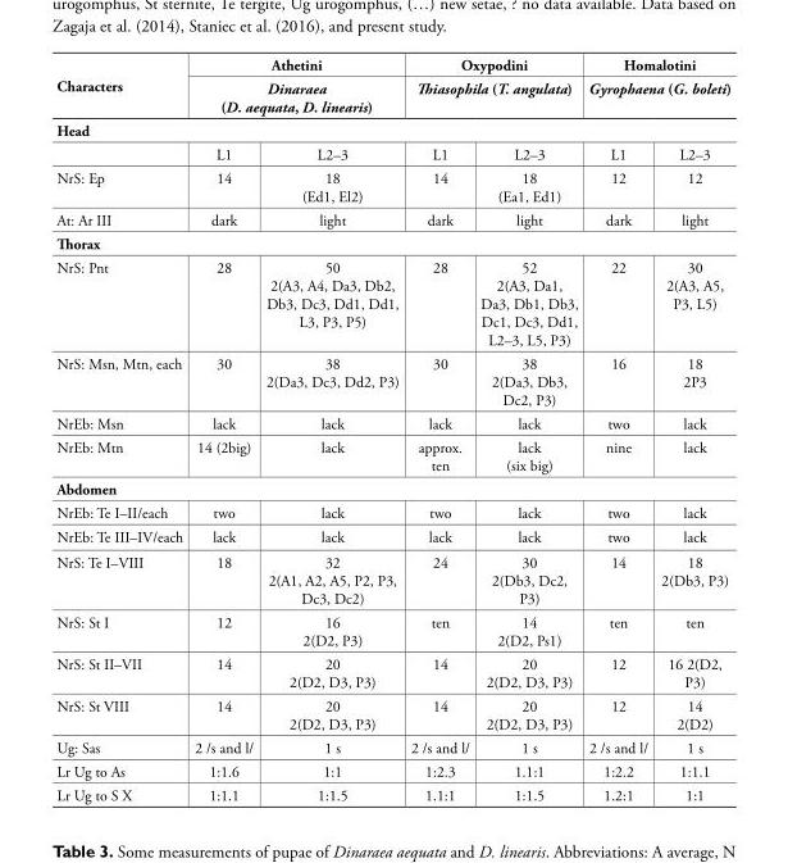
<table><tbody><tr><td rowspan="2">Characters</td><td colspan="2">Athetini</td><td colspan="2">Oxypodini</td><td colspan="2">Homalotini</td></tr><tr><td colspan="2">Dinaraea (D. aequata, D. linearis)</td><td colspan="2">Thiasophila (T. angulata)</td><td colspan="2">Gyrophaena (G. boleti)</td></tr><tr><td colspan="7">Head</td></tr><tr><td></td><td>L1</td><td>L2–3</td><td>L1</td><td>L2–3</td><td>L1</td><td>L2–3</td></tr><tr><td>NrS: Ep</td><td>14</td><td>18 (Ed1, El2)</td><td>14</td><td>18 (Ea1, Ed1)</td><td>12</td><td>12</td></tr><tr><td>At: Ar III</td><td>dark</td><td>light</td><td>dark</td><td>light</td><td>dark</td><td>light</td></tr><tr><td colspan="7">Thorax</td></tr><tr><td>NrS: Pnt</td><td>28</td><td>50 2(A3, A4, Da3, Db2, Db3, Dc3, Dd1, Dd1, L3, P3, P5)</td><td>28</td><td>52 2(A3, Da1, Da3, Db1, Db3, Dc1, Dc3, Dd1, L2–3, L5, P3)</td><td>22</td><td>30 2(A3, A5, P3, L5)</td></tr><tr><td>NrS: Msn, Mtn, each</td><td>30</td><td>38 2(Da3, Dc3, Dd2, P3)</td><td>30</td><td>38 2(Da3, Db3, Dc2, P3)</td><td>16</td><td>18 2P3</td></tr><tr><td>NrEb: Msn</td><td>lack</td><td>lack</td><td>lack</td><td>lack</td><td>two</td><td>lack</td></tr><tr><td>NrEb: Mtn</td><td>14 (2big)</td><td>lack</td><td>approx. ten</td><td>lack (six big)</td><td>nine</td><td>lack</td></tr><tr><td colspan="7">Abdomen</td></tr><tr><td>NrEb: Te I–II/each</td><td>two</td><td>lack</td><td>two</td><td>lack</td><td>two</td><td>lack</td></tr><tr><td>NrEb: Te III–IV/each</td><td>lack</td><td>lack</td><td>lack</td><td>lack</td><td>two</td><td>lack</td></tr><tr><td>NrS: Te I–VIII</td><td>18</td><td>32 2(A1, A2, A5, P2, P3, Dc3, Dc2)</td><td>24</td><td>30 2(Db3, Dc2, P3)</td><td>14</td><td>18 2(Db3, P3)</td></tr><tr><td>NrS: St I</td><td>12</td><td>16 2(D2, P3)</td><td>ten</td><td>14 2(D2, Ps1)</td><td>ten</td><td>ten</td></tr><tr><td>NrS: St II–VII</td><td>14</td><td>20 2(D2, D3, P3)</td><td>14</td><td>20 2(D2, D3, P3)</td><td>12</td><td>16 2(D2, P3)</td></tr><tr><td>NrS: St VIII</td><td>14</td><td>20 2(D2, D3, P3)</td><td>14</td><td>20 2(D2, D3, P3)</td><td>12</td><td>14 2(D2)</td></tr><tr><td>Ug: Sas</td><td>2 /s and l/</td><td>1 s</td><td>2 /s and l/</td><td>1 s</td><td>2 /s and l/</td><td>1 s</td></tr><tr><td>Lr Ug to As</td><td>1:1.6</td><td>1:1</td><td>1:2.3</td><td>1.1:1</td><td>1:2.2</td><td>1:1.1</td></tr><tr><td>Lr Ug to S X</td><td>1:1.1</td><td>1:1.5</td><td>1.1:1</td><td>1:1.5</td><td>1.2:1</td><td>1:1</td></tr></tbody></table>